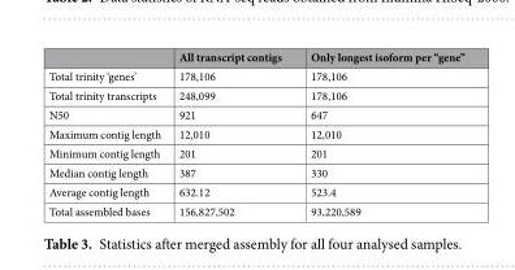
<table><thead><tr><td></td><td>All transcript contigs</td><td>Only longest isoform per “gene”</td></tr></thead><tbody><tr><td>Total trinity ‘genes’</td><td>178,106</td><td>178,106</td></tr><tr><td>Total trinity transcripts</td><td>248,099</td><td>178,106</td></tr><tr><td>N50</td><td>921</td><td>647</td></tr><tr><td>Maximum contig length</td><td>12,010</td><td>12,010</td></tr><tr><td>Minimum contig length</td><td>201</td><td>201</td></tr><tr><td>Median contig length</td><td>387</td><td>330</td></tr><tr><td>Average contig length</td><td>632.12</td><td>523.4</td></tr><tr><td>Total assembled bases</td><td>156,827,502</td><td>93,220,589</td></tr></tbody></table>